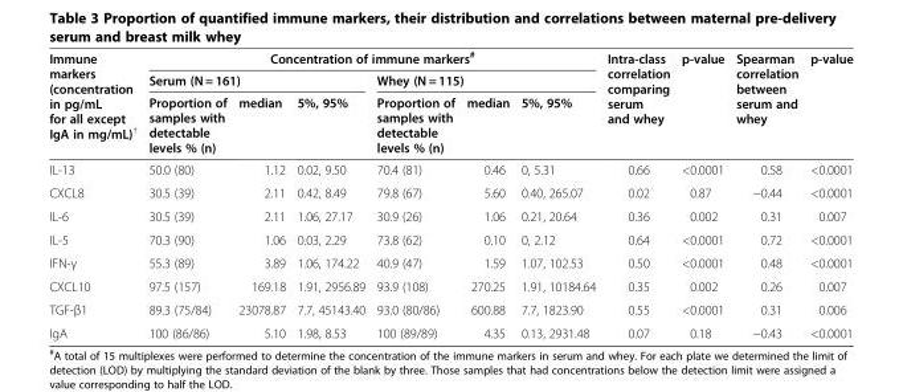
<table><thead><tr><td rowspan="3">Immune markers (concentration in pg/mL for all except IgA in mg/mL)<sup>†</sup></td><td colspan="6">Concentration of immune markers<sup>#</sup></td><td rowspan="3">Intra-class correlation comparing serum and whey</td><td rowspan="3">p-value</td><td rowspan="3">Spearman correlation between serum and whey</td><td rowspan="3">p-value</td></tr><tr><td colspan="3">Serum (N = 161)</td><td colspan="3">Whey (N = 115)</td></tr><tr><td>Proportion of samples with detectable levels % (n)</td><td>median</td><td>5%, 95%</td><td>Proportion of samples with detectable levels % (n)</td><td>median</td><td>5%, 95%</td></tr></thead><tbody><tr><td>IL-13</td><td>50.0 (80)</td><td>1.12</td><td>0.02, 9.50</td><td>70.4 (81)</td><td>0.46</td><td>0, 5.31</td><td>0.66</td><td>&lt;0.0001</td><td>0.58</td><td>&lt;0.0001</td></tr><tr><td>CXCL8</td><td>30.5 (39)</td><td>2.11</td><td>0.42, 8.49</td><td>79.8 (67)</td><td>5.60</td><td>0.40, 265.07</td><td>0.02</td><td>0.87</td><td>−0.44</td><td>&lt;0.0001</td></tr><tr><td>IL-6</td><td>30.5 (39)</td><td>2.11</td><td>1.06, 27.17</td><td>30.9 (26)</td><td>1.06</td><td>0.21, 20.64</td><td>0.36</td><td>0.002</td><td>0.31</td><td>0.007</td></tr><tr><td>IL-5</td><td>70.3 (90)</td><td>1.06</td><td>0.03, 2.29</td><td>73.8 (62)</td><td>0.10</td><td>0, 2.12</td><td>0.64</td><td>&lt;0.0001</td><td>0.72</td><td>&lt;0.0001</td></tr><tr><td>IFN-γ</td><td>55.3 (89)</td><td>3.89</td><td>1.06, 174.22</td><td>40.9 (47)</td><td>1.59</td><td>1.07, 102.53</td><td>0.50</td><td>&lt;0.0001</td><td>0.48</td><td>&lt;0.0001</td></tr><tr><td>CXCL10</td><td>97.5 (157)</td><td>169.18</td><td>1.91, 2956.89</td><td>93.9 (108)</td><td>270.25</td><td>1.91, 10184.64</td><td>0.35</td><td>0.002</td><td>0.26</td><td>0.007</td></tr><tr><td>TGF-β1</td><td>89.3 (75/84)</td><td>23078.87</td><td>7.7, 45143.40</td><td>93.0 (80/86)</td><td>600.88</td><td>7.7, 1823.90</td><td>0.55</td><td>&lt;0.0001</td><td>0.31</td><td>0.006</td></tr><tr><td>IgA</td><td>100 (86/86)</td><td>5.10</td><td>1.98, 8.53</td><td>100 (89/89)</td><td>4.35</td><td>0.13, 2931.48</td><td>0.07</td><td>0.18</td><td>−0.43</td><td>&lt;0.0001</td></tr></tbody></table>